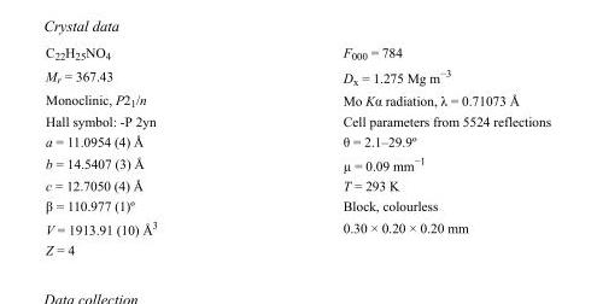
<table><tbody><tr><td>C<sub>22</sub>H<sub>25</sub>NO<sub>4</sub></td><td>F000 = 784</td></tr><tr><td>M<sub>r</sub> = 367.43</td><td>D<sub>x</sub> = 1.275 Mg m<sup>−3</sup></td></tr><tr><td>Monoclinic, P2<sub>1</sub>/n</td><td>Mo Kα radiation, λ = 0.71073 Å</td></tr><tr><td>Hall symbol: -P 2yn</td><td>Cell parameters from 5524 reflections</td></tr><tr><td>a = 11.0954 (4) Å</td><td>θ = 2.1–29.9º</td></tr><tr><td>b = 14.5407 (3) Å</td><td>µ = 0.09 mm<sup>−1</sup></td></tr><tr><td>c = 12.7050 (4) Å</td><td>T = 293 K</td></tr><tr><td>β = 110.977 (1)º</td><td>Block, colourless</td></tr><tr><td>V = 1913.91 (10) Å<sup>3</sup></td><td>0.30 × 0.20 × 0.20 mm</td></tr><tr><td>Z = 4</td><td></td></tr></tbody></table>